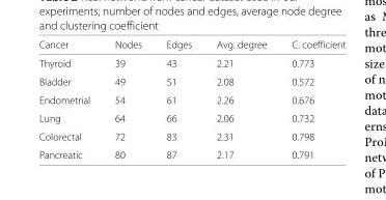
<table><thead><tr><td>Cancer</td><td>Nodes</td><td>Edges</td><td>Avg. degree</td><td>C. coefficient</td></tr></thead><tbody><tr><td>Thyroid</td><td>39</td><td>43</td><td>2.21</td><td>0.773</td></tr><tr><td>Bladder</td><td>49</td><td>51</td><td>2.08</td><td>0.572</td></tr><tr><td>Endometrial</td><td>54</td><td>61</td><td>2.26</td><td>0.676</td></tr><tr><td>Lung</td><td>64</td><td>66</td><td>2.06</td><td>0.732</td></tr><tr><td>Colorectal</td><td>72</td><td>83</td><td>2.31</td><td>0.798</td></tr><tr><td>Pancreatic</td><td>80</td><td>87</td><td>2.17</td><td>0.791</td></tr></tbody></table>